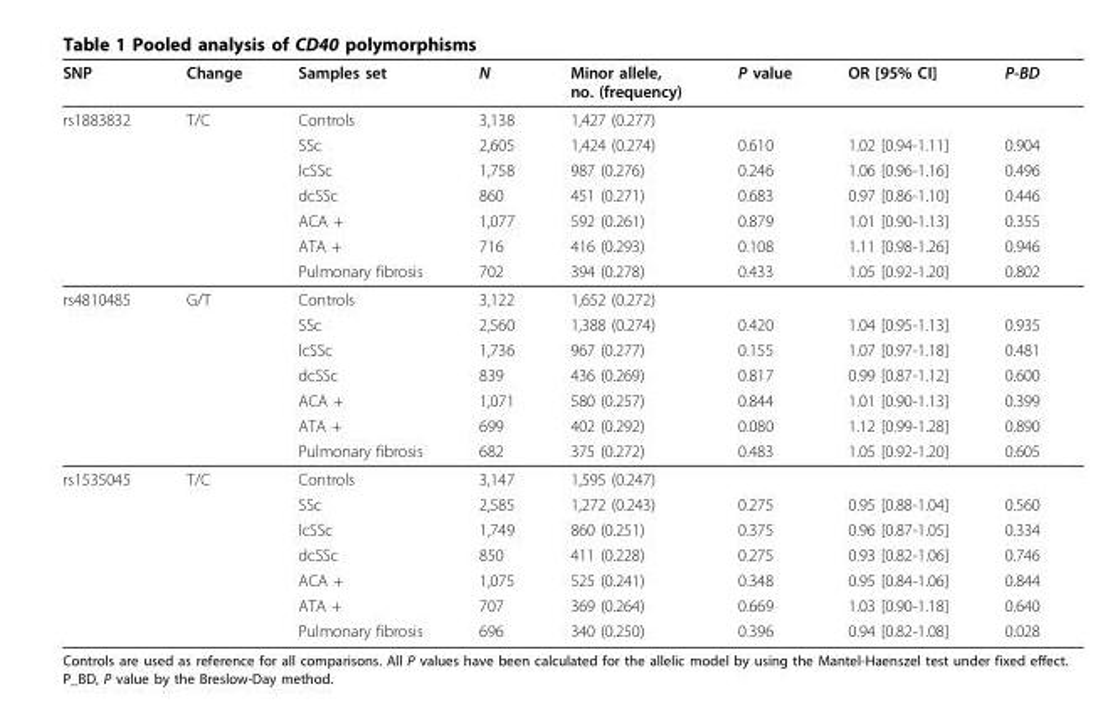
<table><thead><tr><td>SNP</td><td>Change</td><td>Samples set</td><td>N</td><td>Minor allele, no. (frequency)</td><td>P value</td><td>OR [95% CI]</td><td>P-BD</td></tr></thead><tbody><tr><td rowspan="7">rs1883832</td><td>T/C</td><td>Controls</td><td>3,138</td><td>1,427 (0.277)</td><td></td><td></td><td></td></tr><tr><td></td><td>SSc</td><td>2,605</td><td>1,424 (0.274)</td><td>0.610</td><td>1.02 [0.94-1.11]</td><td>0.904</td></tr><tr><td></td><td>lcSSc</td><td>1,758</td><td>987 (0.276)</td><td>0.246</td><td>1.06 [0.96-1.16]</td><td>0.496</td></tr><tr><td></td><td>dcSSc</td><td>860</td><td>451 (0.271)</td><td>0.683</td><td>0.97 [0.86-1.10]</td><td>0.446</td></tr><tr><td></td><td>ACA +</td><td>1,077</td><td>592 (0.261)</td><td>0.879</td><td>1.01 [0.90-1.13]</td><td>0.355</td></tr><tr><td></td><td>ATA +</td><td>716</td><td>416 (0.293)</td><td>0.108</td><td>1.11 [0.98-1.26]</td><td>0.946</td></tr><tr><td></td><td>Pulmonary fibrosis</td><td>702</td><td>394 (0.278)</td><td>0.433</td><td>1.05 [0.92-1.20]</td><td>0.802</td></tr><tr><td rowspan="7">rs4810485</td><td>G/T</td><td>Controls</td><td>3,122</td><td>1,652 (0.272)</td><td></td><td></td><td></td></tr><tr><td></td><td>SSc</td><td>2,560</td><td>1,388 (0.274)</td><td>0.420</td><td>1.04 [0.95-1.13]</td><td>0.935</td></tr><tr><td></td><td>lcSSc</td><td>1,736</td><td>967 (0.277)</td><td>0.155</td><td>1.07 [0.97-1.18]</td><td>0.481</td></tr><tr><td></td><td>dcSSc</td><td>839</td><td>436 (0.269)</td><td>0.817</td><td>0.99 [0.87-1.12]</td><td>0.600</td></tr><tr><td></td><td>ACA +</td><td>1,071</td><td>580 (0.257)</td><td>0.844</td><td>1.01 [0.90-1.13]</td><td>0.399</td></tr><tr><td></td><td>ATA +</td><td>699</td><td>402 (0.292)</td><td>0.080</td><td>1.12 [0.99-1.28]</td><td>0.890</td></tr><tr><td></td><td>Pulmonary fibrosis</td><td>682</td><td>375 (0.272)</td><td>0.483</td><td>1.05 [0.92-1.20]</td><td>0.605</td></tr><tr><td rowspan="7">rs1535045</td><td>T/C</td><td>Controls</td><td>3,147</td><td>1,595 (0.247)</td><td></td><td></td><td></td></tr><tr><td></td><td>SSc</td><td>2,585</td><td>1,272 (0.243)</td><td>0.275</td><td>0.95 [0.88-1.04]</td><td>0.560</td></tr><tr><td></td><td>lcSSc</td><td>1,749</td><td>860 (0.251)</td><td>0.375</td><td>0.96 [0.87-1.05]</td><td>0.334</td></tr><tr><td></td><td>dcSSc</td><td>850</td><td>411 (0.228)</td><td>0.275</td><td>0.93 [0.82-1.06]</td><td>0.746</td></tr><tr><td></td><td>ACA +</td><td>1,075</td><td>525 (0.241)</td><td>0.348</td><td>0.95 [0.84-1.06]</td><td>0.844</td></tr><tr><td></td><td>ATA +</td><td>707</td><td>369 (0.264)</td><td>0.669</td><td>1.03 [0.90-1.18]</td><td>0.640</td></tr><tr><td></td><td>Pulmonary fibrosis</td><td>696</td><td>340 (0.250)</td><td>0.396</td><td>0.94 [0.82-1.08]</td><td>0.028</td></tr></tbody></table>